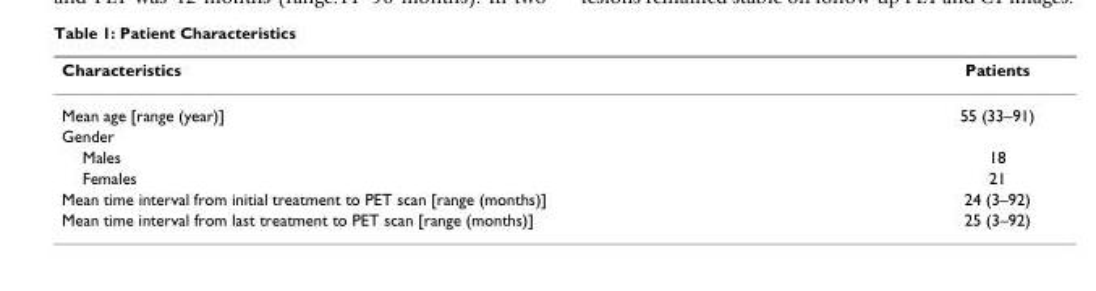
<table><thead><tr><td>Characteristics</td><td>Patients</td></tr></thead><tbody><tr><td>Mean age [range (year)]</td><td>55 (33–91)</td></tr><tr><td colspan="2">Gender</td></tr><tr><td>Males</td><td>18</td></tr><tr><td>Females</td><td>21</td></tr><tr><td>Mean time interval from initial treatment to PET scan [range (months)]</td><td>24 (3–92)</td></tr><tr><td>Mean time interval from last treatment to PET scan [range (months)]</td><td>25 (3–92)</td></tr></tbody></table>